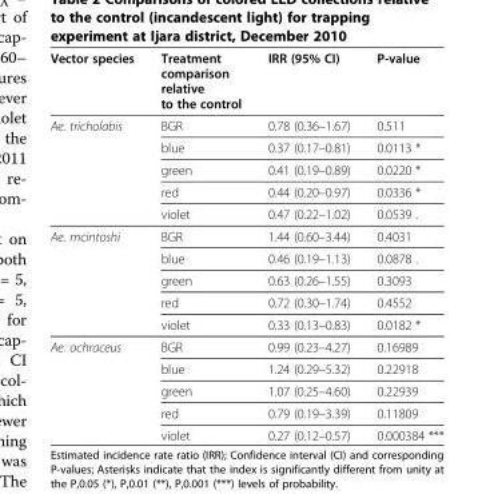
<table><thead><tr><td>Vector species</td><td>Treatment comparison relative to the control</td><td>IRR (95% CI)</td><td>P-value</td></tr></thead><tbody><tr><td rowspan="5">Ae. tricholabis</td><td>BGR</td><td>0.78 (0.36–1.67)</td><td>0.511</td></tr><tr><td>blue</td><td>0.37 (0.17–0.81)</td><td>0.0113 *</td></tr><tr><td>green</td><td>0.41 (0.19–0.89)</td><td>0.0220 *</td></tr><tr><td>red</td><td>0.44 (0.20–0.97)</td><td>0.0336 *</td></tr><tr><td>violet</td><td>0.47 (0.22–1.02)</td><td>0.0539 .</td></tr><tr><td rowspan="5">Ae. mcintoshi</td><td>BGR</td><td>1.44 (0.60–3.44)</td><td>0.4031</td></tr><tr><td>blue</td><td>0.46 (0.19–1.13)</td><td>0.0878 .</td></tr><tr><td>green</td><td>0.63 (0.26–1.55)</td><td>0.3093</td></tr><tr><td>red</td><td>0.72 (0.30–1.74)</td><td>0.4552</td></tr><tr><td>violet</td><td>0.33 (0.13–0.83)</td><td>0.0182 *</td></tr><tr><td rowspan="5">Ae. ochraceus</td><td>BGR</td><td>0.99 (0.23–4.27)</td><td>0.16989</td></tr><tr><td>blue</td><td>1.24 (0.29–5.32)</td><td>0.22918</td></tr><tr><td>green</td><td>1.07 (0.25–4.60)</td><td>0.22939</td></tr><tr><td>red</td><td>0.79 (0.19–3.39)</td><td>0.11809</td></tr><tr><td>violet</td><td>0.27 (0.12–0.57)</td><td>0.000384 ***</td></tr></tbody></table>